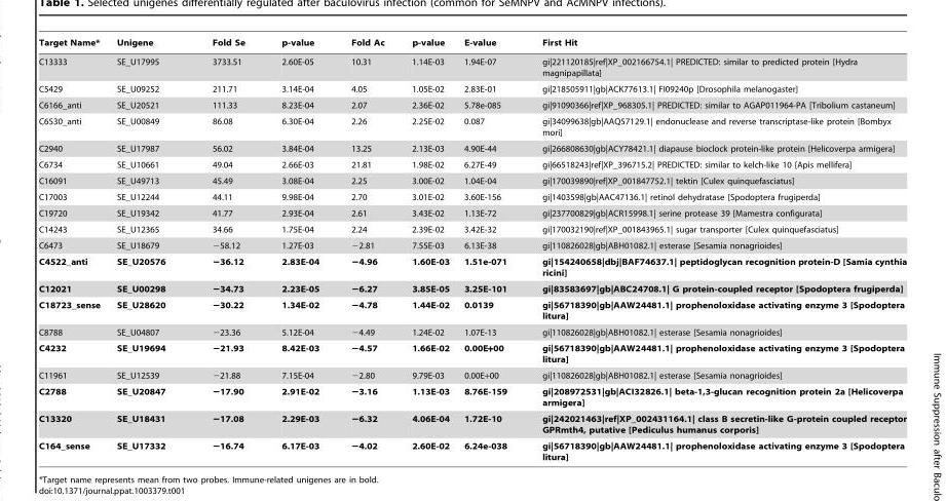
<table><thead><tr><td>Target Name*</td><td>Unigene</td><td>Fold Se</td><td>p-value</td><td>Fold Ac</td><td>p-value</td><td>E-value</td><td>First Hit</td></tr></thead><tbody><tr><td>C13333</td><td>SE_U17995</td><td>3733.51</td><td>2.60E-05</td><td>10.31</td><td>1.14E-03</td><td>1.94E-07</td><td>gi|221120185|ref|XP_002166754.1| PREDICTED: similar to predicted protein [Hydra magnipapillata]</td></tr><tr><td>C5429</td><td>SE_U09252</td><td>211.71</td><td>3.14E-04</td><td>4.05</td><td>1.05E-02</td><td>2.83E-01</td><td>gi|218505911|gb|ACK77613.1| FI09240p [Drosophila melanogaster]</td></tr><tr><td>C6166_anti</td><td>SE_U20521</td><td>111.33</td><td>8.23E-04</td><td>2.07</td><td>2.36E-02</td><td>5.78e-085</td><td>gi|91090366|ref|XP_968305.1| PREDICTED: similar to AGAP011964-PA [Tribolium castaneum]</td></tr><tr><td>C6530_anti</td><td>SE_U00849</td><td>86.08</td><td>6.30E-04</td><td>2.26</td><td>2.25E-02</td><td>0.087</td><td>gi|34099638|gb|AAQ57129.1| endonuclease and reverse transcriptase-like protein [Bombyx mori]</td></tr><tr><td>C2940</td><td>SE_U17987</td><td>56.02</td><td>3.84E-04</td><td>13.25</td><td>2.13E-03</td><td>4.90E-44</td><td>gi|266808630|gb|ACY78421.1| diapause bioclock protein-like protein [Helicoverpa armigera]</td></tr><tr><td>C6734</td><td>SE_U10661</td><td>49.04</td><td>2.66E-03</td><td>21.81</td><td>1.98E-02</td><td>6.27E-49</td><td>gi|66518243|ref|XP_396715.2| PREDICTED: similar to kelch-like 10 [Apis mellifera]</td></tr><tr><td>C16091</td><td>SE_U49713</td><td>45.49</td><td>3.08E-04</td><td>2.25</td><td>3.00E-02</td><td>1.04E-04</td><td>gi|170039890|ref|XP_001847752.1| tektin [Culex quinquefasciatus]</td></tr><tr><td>C17003</td><td>SE_U12244</td><td>44.11</td><td>9.98E-04</td><td>2.70</td><td>3.01E-02</td><td>3.60E-156</td><td>gi|1403598|gb|AAC47136.1| retinol dehydratase [Spodoptera frugiperda]</td></tr><tr><td>C19720</td><td>SE_U19342</td><td>41.77</td><td>2.93E-04</td><td>2.61</td><td>3.43E-02</td><td>1.13E-72</td><td>gi|237700829|gb|ACR15998.1| serine protease 39 [Mamestra configurata]</td></tr><tr><td>C14243</td><td>SE_U12365</td><td>34.66</td><td>1.75E-04</td><td>2.24</td><td>2.39E-02</td><td>3.42E-32</td><td>gi|170032190|ref|XP_001843965.1| sugar transporter [Culex quinquefasciatus]</td></tr><tr><td>C6473</td><td>SE_U18679</td><td>−58.12</td><td>1.27E-03</td><td>−2.81</td><td>7.55E-03</td><td>6.13E-38</td><td>gi|110826028|gb|ABH01082.1| esterase [Sesamia nonagrioides]</td></tr><tr><td>C4522_anti</td><td>SE_U20576</td><td>−36.12</td><td>2.83E-04</td><td>−4.96</td><td>1.60E-03</td><td>1.51e-071</td><td>gi|154240658|dbj|BAF74637.1| peptidoglycan recognition protein-D [Samia cynthia ricini]</td></tr><tr><td>C12021</td><td>SE_U00298</td><td>−34.73</td><td>2.23E-05</td><td>−6.27</td><td>3.85E-05</td><td>3.25E-101</td><td>gi|83583697|gb|ABC24708.1| G protein-coupled receptor [Spodoptera frugiperda]</td></tr><tr><td>C18723_sense</td><td>SE_U28620</td><td>−30.22</td><td>1.34E-02</td><td>−4.78</td><td>1.44E-02</td><td>0.0139</td><td>gi|56718390|gb|AAW24481.1| prophenoloxidase activating enzyme 3 [Spodoptera litura]</td></tr><tr><td>C8788</td><td>SE_U04807</td><td>−23.36</td><td>5.12E-04</td><td>−4.49</td><td>1.24E-02</td><td>1.07E-13</td><td>gi|110826028|gb|ABH01082.1| esterase [Sesamia nonagrioides]</td></tr><tr><td>C4232</td><td>SE_U19694</td><td>−21.93</td><td>8.42E-03</td><td>−4.57</td><td>1.66E-02</td><td>0.00E+00</td><td>gi|56718390|gb|AAW24481.1| prophenoloxidase activating enzyme 3 [Spodoptera litura]</td></tr><tr><td>C11961</td><td>SE_U12539</td><td>−21.88</td><td>7.15E-04</td><td>−2.80</td><td>9.79E-03</td><td>0.00E+00</td><td>gi|110826028|gb|ABH01082.1| esterase [Sesamia nonagrioides]</td></tr><tr><td>C2788</td><td>SE_U20847</td><td>−17.90</td><td>2.91E-02</td><td>−3.16</td><td>1.13E-03</td><td>8.76E-159</td><td>gi|208972531|gb|ACI32826.1| beta-1,3-glucan recognition protein 2a [Helicoverpa armigera]</td></tr><tr><td>C13320</td><td>SE_U18431</td><td>−17.08</td><td>2.29E-03</td><td>−6.32</td><td>4.06E-04</td><td>1.72E-10</td><td>gi|242021463|ref|XP_002431164.1| class B secretin-like G-protein coupled receptor GPRmth4, putative [Pediculus humanus corporis]</td></tr><tr><td>C164_sense</td><td>SE_U17332</td><td>−16.74</td><td>6.17E-03</td><td>−4.02</td><td>2.60E-02</td><td>6.24e-038</td><td>gi|56718390|gb|AAW24481.1| prophenoloxidase activating enzyme 3 [Spodoptera litura]</td></tr></tbody></table>